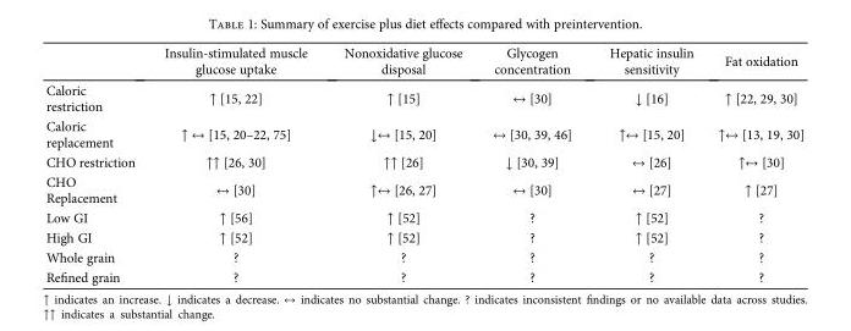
<table><thead><tr><td></td><td>Insulin-stimulated muscle glucose uptake</td><td>Nonoxidative glucose disposal</td><td>Glycogen concentration</td><td>Hepatic insulin sensitivity</td><td>Fat oxidation</td></tr></thead><tbody><tr><td>Caloric restriction</td><td>↑ [15, 22]</td><td>↑ [15]</td><td>↔ [30]</td><td>↓ [16]</td><td>↑ [22, 29, 30]</td></tr><tr><td>Caloric replacement</td><td>↑ ↔ [15, 20–22, 75]</td><td>↓↔ [15, 20]</td><td>↔ [30, 39, 46]</td><td>↑↔ [15, 20]</td><td>↑↔ [13, 19, 30]</td></tr><tr><td>CHO restriction</td><td>↑↑ [26, 30]</td><td>↑↑ [26]</td><td>↓ [30, 39]</td><td>↔ [26]</td><td>↑↔ [30]</td></tr><tr><td>CHO Replacement</td><td>↔ [30]</td><td>↑↔ [26, 27]</td><td>↔ [30]</td><td>↔ [27]</td><td>↑ [27]</td></tr><tr><td>Low GI</td><td>↑ [56]</td><td>↑ [52]</td><td>?</td><td>↑ [52]</td><td>?</td></tr><tr><td>High GI</td><td>↑ [52]</td><td>↑ [52]</td><td>?</td><td>↑ [52]</td><td>?</td></tr><tr><td>Whole grain</td><td>?</td><td>?</td><td>?</td><td>?</td><td>?</td></tr><tr><td>Refined grain</td><td>?</td><td>?</td><td>?</td><td>?</td><td>?</td></tr></tbody></table>